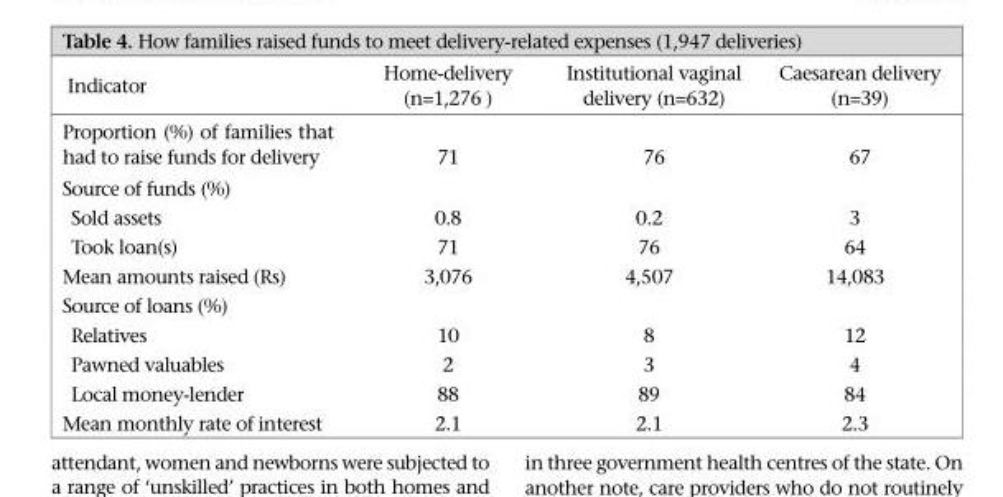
<table><thead><tr><td>Indicator</td><td>Home-delivery (n=1,276 )</td><td>Institutional vaginal delivery (n=632)</td><td>Caesarean delivery (n=39)</td></tr></thead><tbody><tr><td>Proportion (%) of families that had to raise funds for delivery</td><td>71</td><td>76</td><td>67</td></tr><tr><td colspan="4">Source of funds (%)</td></tr><tr><td>Sold assets</td><td>0.8</td><td>0.2</td><td>3</td></tr><tr><td>Took loan(s)</td><td>71</td><td>76</td><td>64</td></tr><tr><td>Mean amounts raised (Rs)</td><td>3,076</td><td>4,507</td><td>14,083</td></tr><tr><td colspan="4">Source of loans (%)</td></tr><tr><td>Relatives</td><td>10</td><td>8</td><td>12</td></tr><tr><td>Pawned valuables</td><td>2</td><td>3</td><td>4</td></tr><tr><td>Local money-lender</td><td>88</td><td>89</td><td>84</td></tr><tr><td>Mean monthly rate of interest</td><td>2.1</td><td>2.1</td><td>2.3</td></tr></tbody></table>